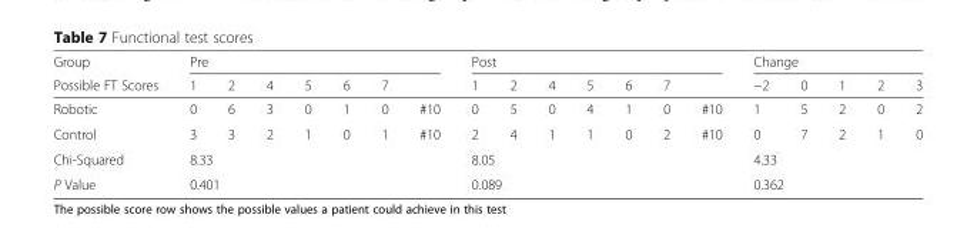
<table><thead><tr><td rowspan="2">Group Possible FT Scores</td><td colspan="7">Pre</td><td colspan="7">Post</td><td colspan="5">Change</td></tr><tr><td>1</td><td>2</td><td>4</td><td>5</td><td>6</td><td>7</td><td></td><td>1</td><td>2</td><td>4</td><td>5</td><td>6</td><td>7</td><td></td><td>−2</td><td>0</td><td>1</td><td>2</td><td>3</td></tr></thead><tbody><tr><td>Robotic</td><td>0</td><td>6</td><td>3</td><td>0</td><td>1</td><td>0</td><td>#10</td><td>0</td><td>5</td><td>0</td><td>4</td><td>1</td><td>0</td><td>#10</td><td>1</td><td>5</td><td>2</td><td>0</td><td>2</td></tr><tr><td>Control</td><td>3</td><td>3</td><td>2</td><td>1</td><td>0</td><td>1</td><td>#10</td><td>2</td><td>4</td><td>1</td><td>1</td><td>0</td><td>2</td><td>#10</td><td>0</td><td>7</td><td>2</td><td>1</td><td>0</td></tr><tr><td>Chi-Squared</td><td colspan="6">8.33</td><td rowspan="2"></td><td colspan="6">8.05</td><td rowspan="2"></td><td colspan="5">4.33</td></tr><tr><td>P Value</td><td colspan="6">0.401</td><td colspan="6">0.089</td><td colspan="5">0.362</td></tr></tbody></table>